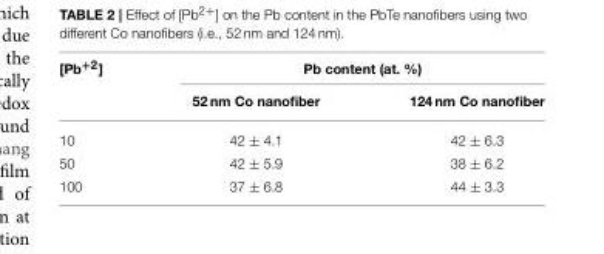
<table><thead><tr><td rowspan="2">[Pb<sup>+2</sup>]</td><td colspan="2">Pb content (at. %)</td></tr><tr><td>52 nm Co nanofiber</td><td>124 nm Co nanofiber</td></tr></thead><tbody><tr><td>10</td><td>42 ± 4.1</td><td>42 ± 6.3</td></tr><tr><td>50</td><td>42 ± 5.9</td><td>38 ± 6.2</td></tr><tr><td>100</td><td>37 ± 6.8</td><td>44 ± 3.3</td></tr></tbody></table>